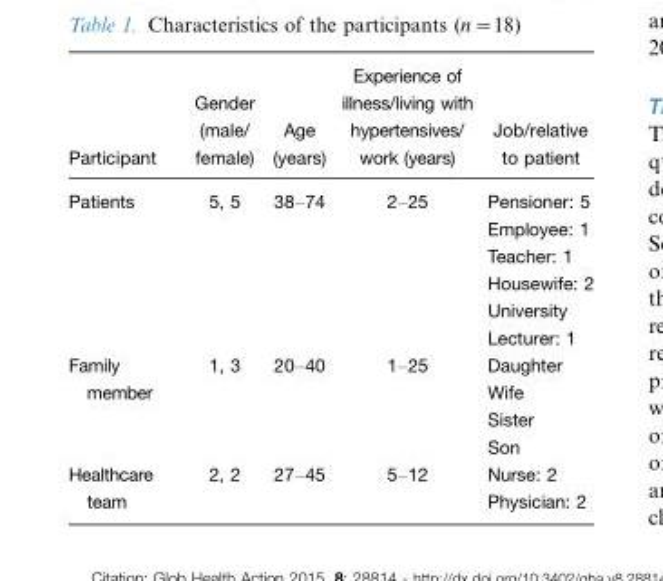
<table><thead><tr><td>Participant</td><td>Gender (male/ female)</td><td>Age (years)</td><td>Experience of illness/living with hypertensives/ work (years)</td><td>Job/relative to patient</td></tr></thead><tbody><tr><td>Patients</td><td>5, 5</td><td>38–74</td><td>2–25</td><td>Pensioner: 5 Employee: 1 Teacher: 1 Housewife: 2 University Lecturer: 1</td></tr><tr><td>Family member</td><td>1, 3</td><td>20–40</td><td>1–25</td><td>Daughter Wife Sister Son</td></tr><tr><td>Healthcare team</td><td>2, 2</td><td>27–45</td><td>5–12</td><td>Nurse: 2 Physician: 2</td></tr></tbody></table>